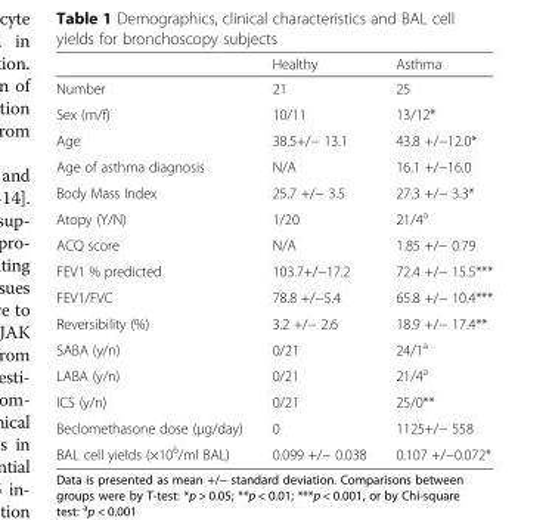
<table><thead><tr><td></td><td>Healthy</td><td>Asthma</td></tr></thead><tbody><tr><td>Number</td><td>21</td><td>25</td></tr><tr><td>Sex (m/f)</td><td>10/11</td><td>13/12*</td></tr><tr><td>Age</td><td>38.5+/− 13.1</td><td>43.8 +/−12.0*</td></tr><tr><td>Age of asthma diagnosis</td><td>N/A</td><td>16.1 +/−16.0</td></tr><tr><td>Body Mass Index</td><td>25.7 +/− 3.5</td><td>27.3 +/− 3.3*</td></tr><tr><td>Atopy (Y/N)</td><td>1/20</td><td>21/4<sup>a</sup></td></tr><tr><td>ACQ score</td><td>N/A</td><td>1.85 +/− 0.79</td></tr><tr><td>FEV1 % predicted</td><td>103.7+/−17.2</td><td>72.4 +/− 15.5***</td></tr><tr><td>FEV1/FVC</td><td>78.8 +/−5.4</td><td>65.8 +/− 10.4***</td></tr><tr><td>Reversibility (%)</td><td>3.2 +/− 2.6</td><td>18.9 +/− 17.4**</td></tr><tr><td>SABA (y/n)</td><td>0/21</td><td>24/1<sup>a</sup></td></tr><tr><td>LABA (y/n)</td><td>0/21</td><td>21/4<sup>a</sup></td></tr><tr><td>ICS (y/n)</td><td>0/21</td><td>25/0**</td></tr><tr><td>Beclomethasone dose (μg/day)</td><td>0</td><td>1125+/− 558</td></tr><tr><td>BAL cell yields (×10<sup>6</sup>/ml BAL)</td><td>0.099 +/− 0.038</td><td>0.107 +/−0.072*</td></tr></tbody></table>